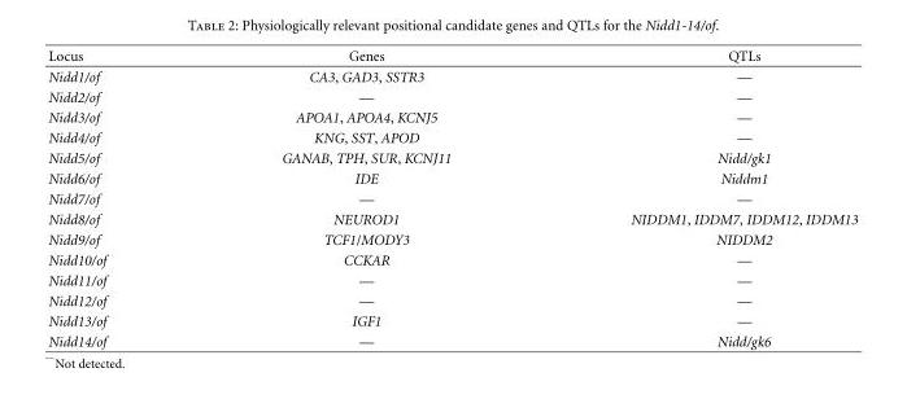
<table><thead><tr><td>Locus</td><td>Genes</td><td>QTLs</td></tr></thead><tbody><tr><td>Nidd1/of</td><td>CA3, GAD3, SSTR3</td><td>—</td></tr><tr><td>Nidd2/of</td><td>—</td><td>—</td></tr><tr><td>Nidd3/of</td><td>APOA1, APOA4, KCNJ5</td><td>—</td></tr><tr><td>Nidd4/of</td><td>KNG, SST, APOD</td><td>—</td></tr><tr><td>Nidd5/of</td><td>GANAB, TPH, SUR, KCNJ11</td><td>Nidd/gk1</td></tr><tr><td>Nidd6/of</td><td>IDE</td><td>Niddm1</td></tr><tr><td>Nidd7/of</td><td>—</td><td>—</td></tr><tr><td>Nidd8/of</td><td>NEUROD1</td><td>NIDDM1, IDDM7, IDDM12, IDDM13</td></tr><tr><td>Nidd9/of</td><td>TCF1/MODY3</td><td>NIDDM2</td></tr><tr><td>Nidd10/of</td><td>CCKAR</td><td>—</td></tr><tr><td>Nidd11/of</td><td>—</td><td>—</td></tr><tr><td>Nidd12/of</td><td>—</td><td>—</td></tr><tr><td>Nidd13/of</td><td>IGF1</td><td>—</td></tr><tr><td>Nidd14/of</td><td>—</td><td>Nidd/gk6</td></tr></tbody></table>